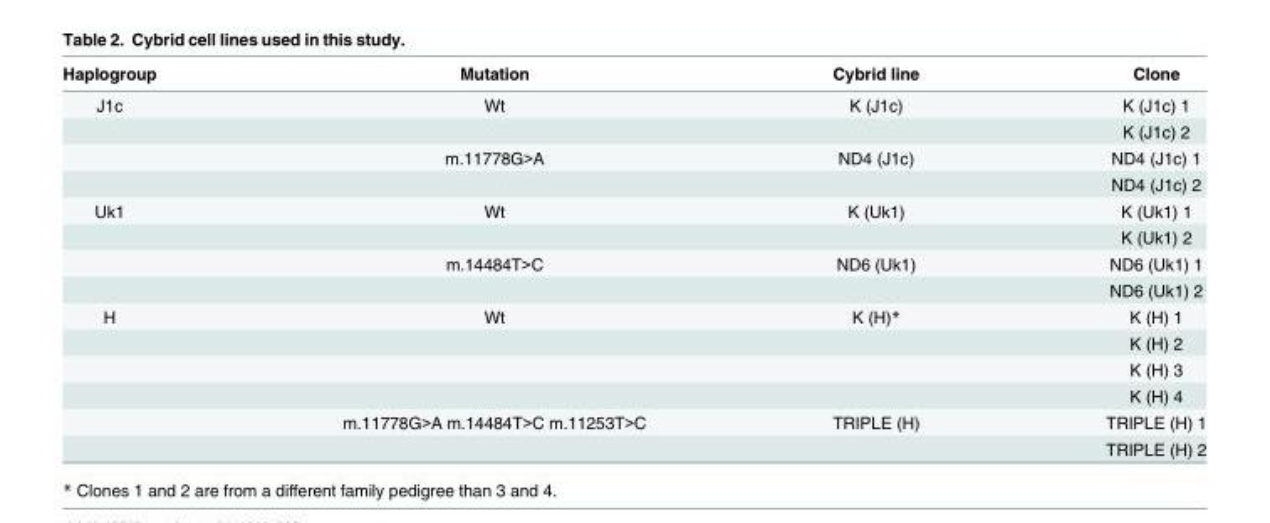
<table><thead><tr><td>Haplogroup</td><td>Mutation</td><td>Cybrid line</td><td>Clone</td></tr></thead><tbody><tr><td rowspan="4">J1c</td><td>Wt</td><td>K (J1c)</td><td>K (J1c) 1</td></tr><tr><td></td><td></td><td>K (J1c) 2</td></tr><tr><td>m.11778G&gt;A</td><td>ND4 (J1c)</td><td>ND4 (J1c) 1</td></tr><tr><td></td><td></td><td>ND4 (J1c) 2</td></tr><tr><td rowspan="4">Uk1</td><td>Wt</td><td>K (Uk1)</td><td>K (Uk1) 1</td></tr><tr><td></td><td></td><td>K (Uk1) 2</td></tr><tr><td>m.14484T&gt;C</td><td>ND6 (Uk1)</td><td>ND6 (Uk1) 1</td></tr><tr><td></td><td></td><td>ND6 (Uk1) 2</td></tr><tr><td rowspan="6">H</td><td>Wt</td><td>K (H)*</td><td>K (H) 1</td></tr><tr><td></td><td></td><td>K (H) 2</td></tr><tr><td></td><td></td><td>K (H) 3</td></tr><tr><td></td><td></td><td>K (H) 4</td></tr><tr><td>m.11778G&gt;A m.14484T&gt;C m.11253T&gt;C</td><td>TRIPLE (H)</td><td>TRIPLE (H) 1</td></tr><tr><td></td><td></td><td>TRIPLE (H) 2</td></tr></tbody></table>